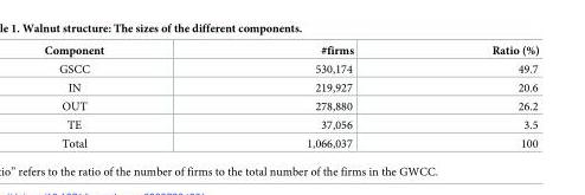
<table><thead><tr><td>Component</td><td>#firms</td><td>Ratio (%)</td></tr></thead><tbody><tr><td>GSCC</td><td>530,174</td><td>49.7</td></tr><tr><td>IN</td><td>219,927</td><td>20.6</td></tr><tr><td>OUT</td><td>278,880</td><td>26.2</td></tr><tr><td>TE</td><td>37,056</td><td>3.5</td></tr><tr><td>Total</td><td>1,066,037</td><td>100</td></tr></tbody></table>